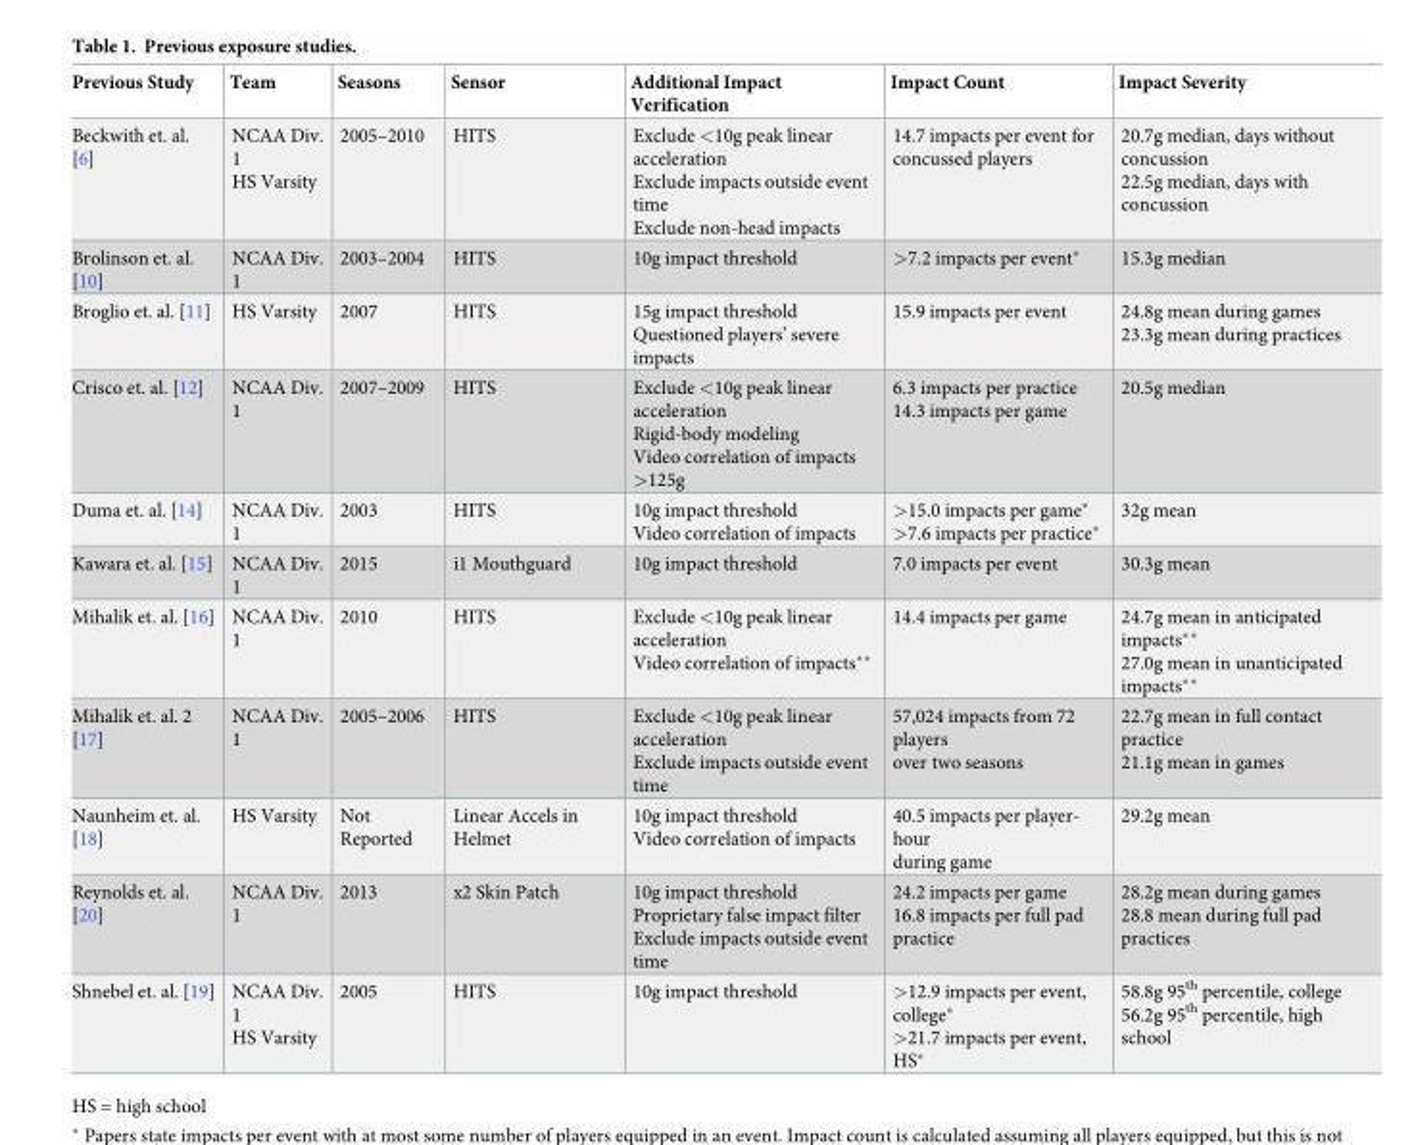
<table><thead><tr><td>Previous Study</td><td>Team</td><td>Seasons</td><td>Sensor</td><td>Additional Impact Verification</td><td>Impact Count</td><td>Impact Severity</td></tr></thead><tbody><tr><td>Beckwith et. al. [6]</td><td>NCAA Div. 1 HS Varsity</td><td>2005–2010</td><td>HITS</td><td>Exclude &lt;10g peak linear acceleration Exclude impacts outside event time Exclude non-head impacts</td><td>14.7 impacts per event for concussed players</td><td>20.7g median, days without concussion 22.5g median, days with concussion</td></tr><tr><td>Brolinson et. al. [10]</td><td>NCAA Div. 1</td><td>2003–2004</td><td>HITS</td><td>10g impact threshold</td><td>&gt;7.2 impacts per event*</td><td>15.3g median</td></tr><tr><td>Broglio et. al. [11]</td><td>HS Varsity</td><td>2007</td><td>HITS</td><td>15g impact threshold Questioned players’ severe impacts</td><td>15.9 impacts per event</td><td>24.8g mean during games 23.3g mean during practices</td></tr><tr><td>Crisco et. al. [12]</td><td>NCAA Div. 1</td><td>2007–2009</td><td>HITS</td><td>Exclude &lt;10g peak linear acceleration Rigid-body modeling Video correlation of impacts &gt;125g</td><td>6.3 impacts per practice 14.3 impacts per game</td><td>20.5g median</td></tr><tr><td>Duma et. al. [14]</td><td>NCAA Div. 1</td><td>2003</td><td>HITS</td><td>10g impact threshold Video correlation of impacts</td><td>&gt;15.0 impacts per game* &gt;7.6 impacts per practice*</td><td>32g mean</td></tr><tr><td>Kawara et. al. [15]</td><td>NCAA Div. 1</td><td>2015</td><td>i1 Mouthguard</td><td>10g impact threshold</td><td>7.0 impacts per event</td><td>30.3g mean</td></tr><tr><td>Mihalik et. al. [16]</td><td>NCAA Div. 1</td><td>2010</td><td>HITS</td><td>Exclude &lt;10g peak linear acceleration Video correlation of impacts**</td><td>14.4 impacts per game</td><td>24.7g mean in anticipated impacts** 27.0g mean in unanticipated impacts**</td></tr><tr><td>Mihalik et. al. 2 [17]</td><td>NCAA Div. 1</td><td>2005–2006</td><td>HITS</td><td>Exclude &lt;10g peak linear acceleration Exclude impacts outside event time</td><td>57,024 impacts from 72 players over two seasons</td><td>22.7g mean in full contact practice 21.1g mean in games</td></tr><tr><td>Naunheim et. al. [18]</td><td>HS Varsity</td><td>Not Reported</td><td>Linear Accels in Helmet</td><td>10g impact threshold Video correlation of impacts</td><td>40.5 impacts per player- hour during game</td><td>29.2g mean</td></tr><tr><td>Reynolds et. al. [20]</td><td>NCAA Div. 1</td><td>2013</td><td>x2 Skin Patch</td><td>10g impact threshold Proprietary false impact filter Exclude impacts outside event time</td><td>24.2 impacts per game 16.8 impacts per full pad practice</td><td>28.2g mean during games 28.8 mean during full pad practices</td></tr><tr><td>Shnebel et. al. [19]</td><td>NCAA Div. 1 HS Varsity</td><td>2005</td><td>HITS</td><td>10g impact threshold</td><td>&gt;12.9 impacts per event, college* &gt;21.7 impacts per event, HS*</td><td>58.8g 95<sup>th</sup> percentile, college 56.2g 95<sup>th</sup> percentile, high school</td></tr></tbody></table>